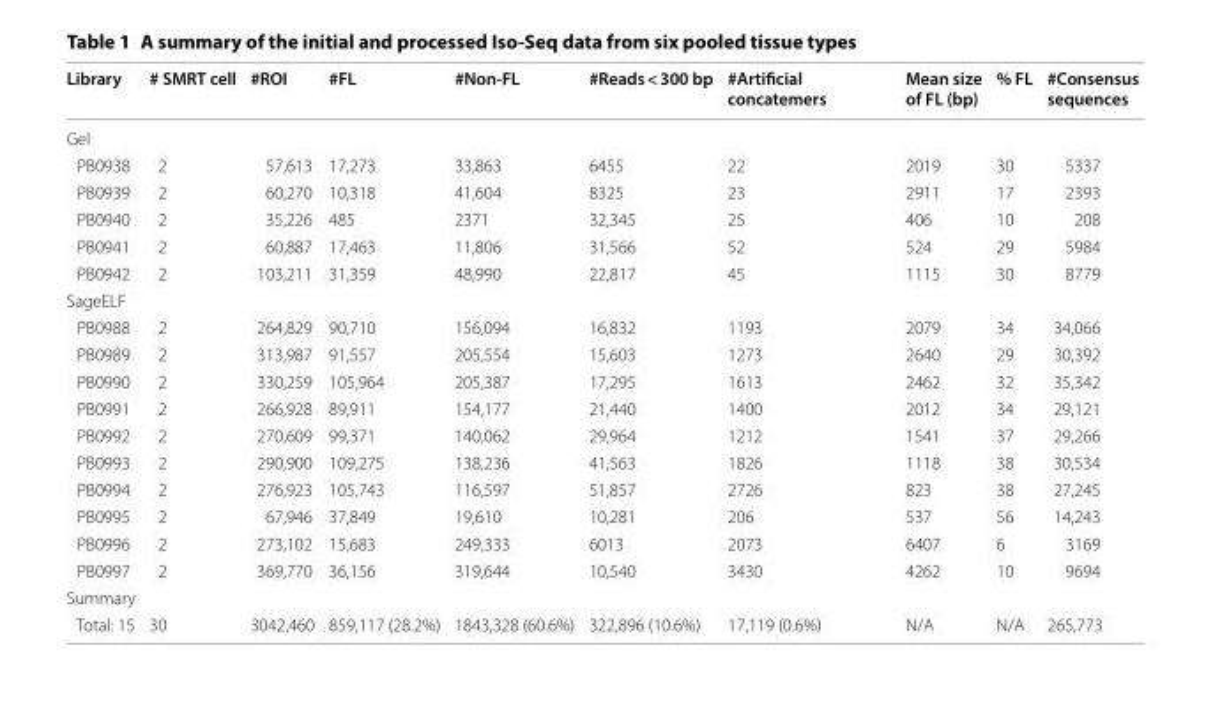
<table><thead><tr><td>Library</td><td># SMRT cell</td><td>#ROI</td><td>#FL</td><td>#Non-FL</td><td>#Reads &lt; 300 bp</td><td>#Artificial concatemers</td><td>Mean size of FL (bp)</td><td>% FL</td><td>#Consensus sequences</td></tr></thead><tbody><tr><td colspan="10">Gel</td></tr><tr><td>PB0938</td><td>2</td><td>57,613</td><td>17,273</td><td>33,863</td><td>6455</td><td>22</td><td>2019</td><td>30</td><td>5337</td></tr><tr><td>PB0939</td><td>2</td><td>60,270</td><td>10,318</td><td>41,604</td><td>8325</td><td>23</td><td>2911</td><td>17</td><td>2393</td></tr><tr><td>PB0940</td><td>2</td><td>35,226</td><td>485</td><td>2371</td><td>32,345</td><td>25</td><td>406</td><td>10</td><td>208</td></tr><tr><td>PB0941</td><td>2</td><td>60,887</td><td>17,463</td><td>11,806</td><td>31,566</td><td>52</td><td>524</td><td>29</td><td>5984</td></tr><tr><td>PB0942</td><td>2</td><td>103,211</td><td>31,359</td><td>48,990</td><td>22,817</td><td>45</td><td>1115</td><td>30</td><td>8779</td></tr><tr><td colspan="10">SageELF</td></tr><tr><td>PB0988</td><td>2</td><td>264,829</td><td>90,710</td><td>156,094</td><td>16,832</td><td>1193</td><td>2079</td><td>34</td><td>34,066</td></tr><tr><td>PB0989</td><td>2</td><td>313,987</td><td>91,557</td><td>205,554</td><td>15,603</td><td>1273</td><td>2640</td><td>29</td><td>30,392</td></tr><tr><td>PB0990</td><td>2</td><td>330,259</td><td>105,964</td><td>205,387</td><td>17,295</td><td>1613</td><td>2462</td><td>32</td><td>35,342</td></tr><tr><td>PB0991</td><td>2</td><td>266,928</td><td>89,911</td><td>154,177</td><td>21,440</td><td>1400</td><td>2012</td><td>34</td><td>29,121</td></tr><tr><td>PB0992</td><td>2</td><td>270,609</td><td>99,371</td><td>140,062</td><td>29,964</td><td>1212</td><td>1541</td><td>37</td><td>29,266</td></tr><tr><td>PB0993</td><td>2</td><td>290,900</td><td>109,275</td><td>138,236</td><td>41,563</td><td>1826</td><td>1118</td><td>38</td><td>30,534</td></tr><tr><td>PB0994</td><td>2</td><td>276,923</td><td>105,743</td><td>116,597</td><td>51,857</td><td>2726</td><td>823</td><td>38</td><td>27,245</td></tr><tr><td>PB0995</td><td>2</td><td>67,946</td><td>37,849</td><td>19,610</td><td>10,281</td><td>206</td><td>537</td><td>56</td><td>14,243</td></tr><tr><td>PB0996</td><td>2</td><td>273,102</td><td>15,683</td><td>249,333</td><td>6013</td><td>2073</td><td>6407</td><td>6</td><td>3169</td></tr><tr><td>PB0997</td><td>2</td><td>369,770</td><td>36,156</td><td>319,644</td><td>10,540</td><td>3430</td><td>4262</td><td>10</td><td>9694</td></tr><tr><td colspan="10">Summary</td></tr><tr><td>Total: 15</td><td>30</td><td>3042,460</td><td>859,117 (28.2%)</td><td>1843,328 (60.6%)</td><td>322,896 (10.6%)</td><td>17,119 (0.6%)</td><td>N/A</td><td>N/A</td><td>265,773</td></tr></tbody></table>